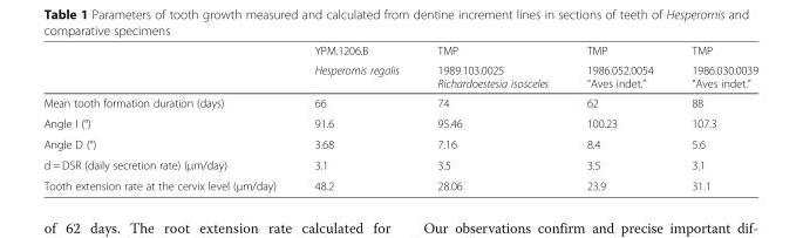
<table><thead><tr><td rowspan="2"></td><td rowspan="2">YPM.1206.B Hesperornis regalis</td><td rowspan="2">TMP 1989.103.0025 Richardoestesia isosceles</td><td rowspan="2">TMP 1986.052.0054 “Aves indet.”</td><td rowspan="2">TMP 1986.030.0039 “Aves indet.”</td></tr><tr></tr></thead><tbody><tr><td>Mean tooth formation duration (days)</td><td>66</td><td>74</td><td>62</td><td>88</td></tr><tr><td>Angle I (°)</td><td>91.6</td><td>95.46</td><td>100.23</td><td>107.3</td></tr><tr><td>Angle D (°)</td><td>3.68</td><td>7.16</td><td>8.4</td><td>5.6</td></tr><tr><td>d = DSR (daily secretion rate) (μm/day)</td><td>3.1</td><td>3.5</td><td>3.5</td><td>3.1</td></tr><tr><td>Tooth extension rate at the cervix level (μm/day)</td><td>48.2</td><td>28.06</td><td>23.9</td><td>31.1</td></tr></tbody></table>